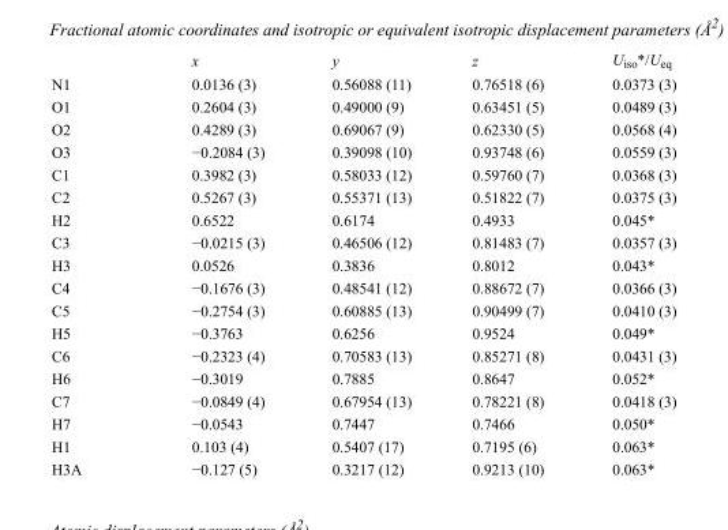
<table><thead><tr><td></td><td>x</td><td>y</td><td>z</td><td>U<sub>iso</sub>*/U<sub>eq</sub></td></tr></thead><tbody><tr><td>N1</td><td>0.0136 (3)</td><td>0.56088 (11)</td><td>0.76518 (6)</td><td>0.0373 (3)</td></tr><tr><td>O1</td><td>0.2604 (3)</td><td>0.49000 (9)</td><td>0.63451 (5)</td><td>0.0489 (3)</td></tr><tr><td>O2</td><td>0.4289 (3)</td><td>0.69067 (9)</td><td>0.62330 (5)</td><td>0.0568 (4)</td></tr><tr><td>O3</td><td>−0.2084 (3)</td><td>0.39098 (10)</td><td>0.93748 (6)</td><td>0.0559 (3)</td></tr><tr><td>C1</td><td>0.3982 (3)</td><td>0.58033 (12)</td><td>0.59760 (7)</td><td>0.0368 (3)</td></tr><tr><td>C2</td><td>0.5267 (3)</td><td>0.55371 (13)</td><td>0.51822 (7)</td><td>0.0375 (3)</td></tr><tr><td>H2</td><td>0.6522</td><td>0.6174</td><td>0.4933</td><td>0.045*</td></tr><tr><td>C3</td><td>−0.0215 (3)</td><td>0.46506 (12)</td><td>0.81483 (7)</td><td>0.0357 (3)</td></tr><tr><td>H3</td><td>0.0526</td><td>0.3836</td><td>0.8012</td><td>0.043*</td></tr><tr><td>C4</td><td>−0.1676 (3)</td><td>0.48541 (12)</td><td>0.88672 (7)</td><td>0.0366 (3)</td></tr><tr><td>C5</td><td>−0.2754 (3)</td><td>0.60885 (13)</td><td>0.90499 (7)</td><td>0.0410 (3)</td></tr><tr><td>H5</td><td>−0.3763</td><td>0.6256</td><td>0.9524</td><td>0.049*</td></tr><tr><td>C6</td><td>−0.2323 (4)</td><td>0.70583 (13)</td><td>0.85271 (8)</td><td>0.0431 (3)</td></tr><tr><td>H6</td><td>−0.3019</td><td>0.7885</td><td>0.8647</td><td>0.052*</td></tr><tr><td>C7</td><td>−0.0849 (4)</td><td>0.67954 (13)</td><td>0.78221 (8)</td><td>0.0418 (3)</td></tr><tr><td>H7</td><td>−0.0543</td><td>0.7447</td><td>0.7466</td><td>0.050*</td></tr><tr><td>H1</td><td>0.103 (4)</td><td>0.5407 (17)</td><td>0.7195 (6)</td><td>0.063*</td></tr><tr><td>H3A</td><td>−0.127 (5)</td><td>0.3217 (12)</td><td>0.9213 (10)</td><td>0.063*</td></tr></tbody></table>